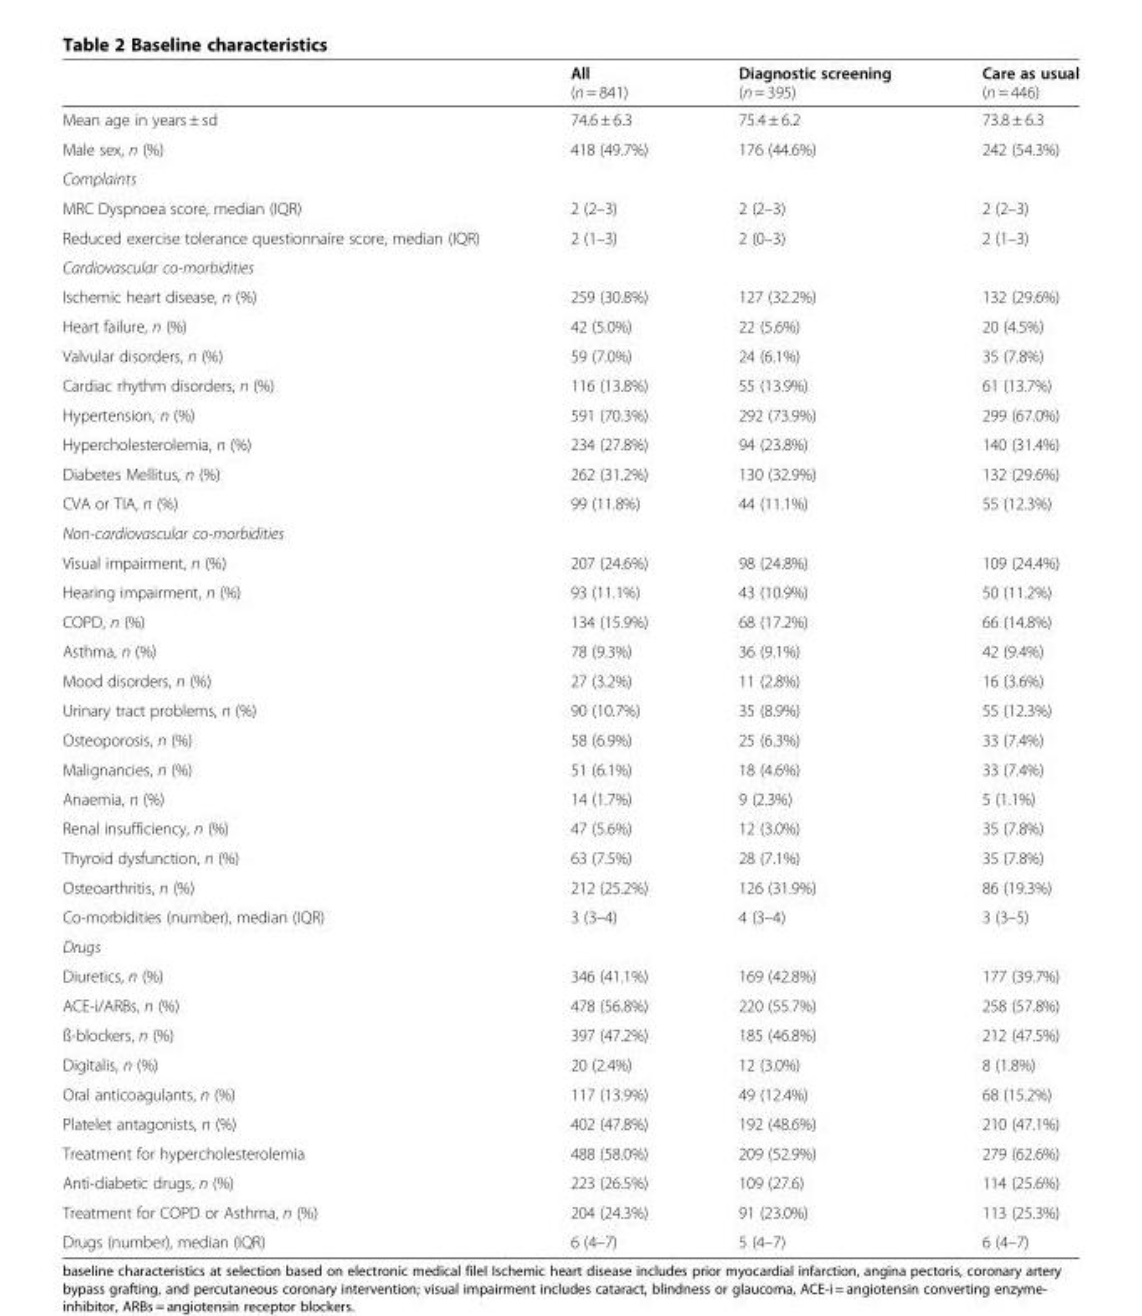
<table><thead><tr><td rowspan="2"></td><td rowspan="2">All (n = 841)</td><td rowspan="2">Diagnostic screening (n = 395)</td><td rowspan="2">Care as usual (n = 446)</td></tr><tr></tr></thead><tbody><tr><td>Mean age in years ± sd</td><td>74.6 ± 6.3</td><td>75.4 ± 6.2</td><td>73.8 ± 6.3</td></tr><tr><td>Male sex, n (%)</td><td>418 (49.7%)</td><td>176 (44.6%)</td><td>242 (54.3%)</td></tr><tr><td colspan="4">Complaints</td></tr><tr><td>MRC Dyspnoea score, median (IQR)</td><td>2 (2–3)</td><td>2 (2–3)</td><td>2 (2–3)</td></tr><tr><td>Reduced exercise tolerance questionnaire score, median (IQR)</td><td>2 (1–3)</td><td>2 (0–3)</td><td>2 (1–3)</td></tr><tr><td colspan="4">Cardiovascular co-morbidities</td></tr><tr><td>Ischemic heart disease, n (%)</td><td>259 (30.8%)</td><td>127 (32.2%)</td><td>132 (29.6%)</td></tr><tr><td>Heart failure, n (%)</td><td>42 (5.0%)</td><td>22 (5.6%)</td><td>20 (4.5%)</td></tr><tr><td>Valvular disorders, n (%)</td><td>59 (7.0%)</td><td>24 (6.1%)</td><td>35 (7.8%)</td></tr><tr><td>Cardiac rhythm disorders, n (%)</td><td>116 (13.8%)</td><td>55 (13.9%)</td><td>61 (13.7%)</td></tr><tr><td>Hypertension, n (%)</td><td>591 (70.3%)</td><td>292 (73.9%)</td><td>299 (67.0%)</td></tr><tr><td>Hypercholesterolemia, n (%)</td><td>234 (27.8%)</td><td>94 (23.8%)</td><td>140 (31.4%)</td></tr><tr><td>Diabetes Mellitus, n (%)</td><td>262 (31.2%)</td><td>130 (32.9%)</td><td>132 (29.6%)</td></tr><tr><td>CVA or TIA, n (%)</td><td>99 (11.8%)</td><td>44 (11.1%)</td><td>55 (12.3%)</td></tr><tr><td colspan="4">Non-cardiovascular co-morbidities</td></tr><tr><td>Visual impairment, n (%)</td><td>207 (24.6%)</td><td>98 (24.8%)</td><td>109 (24.4%)</td></tr><tr><td>Hearing impairment, n (%)</td><td>93 (11.1%)</td><td>43 (10.9%)</td><td>50 (11.2%)</td></tr><tr><td>COPD, n (%)</td><td>134 (15.9%)</td><td>68 (17.2%)</td><td>66 (14.8%)</td></tr><tr><td>Asthma, n (%)</td><td>78 (9.3%)</td><td>36 (9.1%)</td><td>42 (9.4%)</td></tr><tr><td>Mood disorders, n (%)</td><td>27 (3.2%)</td><td>11 (2.8%)</td><td>16 (3.6%)</td></tr><tr><td>Urinary tract problems, n (%)</td><td>90 (10.7%)</td><td>35 (8.9%)</td><td>55 (12.3%)</td></tr><tr><td>Osteoporosis, n (%)</td><td>58 (6.9%)</td><td>25 (6.3%)</td><td>33 (7.4%)</td></tr><tr><td>Malignancies, n (%)</td><td>51 (6.1%)</td><td>18 (4.6%)</td><td>33 (7.4%)</td></tr><tr><td>Anaemia, n (%)</td><td>14 (1.7%)</td><td>9 (2.3%)</td><td>5 (1.1%)</td></tr><tr><td>Renal insufficiency, n (%)</td><td>47 (5.6%)</td><td>12 (3.0%)</td><td>35 (7.8%)</td></tr><tr><td>Thyroid dysfunction, n (%)</td><td>63 (7.5%)</td><td>28 (7.1%)</td><td>35 (7.8%)</td></tr><tr><td>Osteoarthritis, n (%)</td><td>212 (25.2%)</td><td>126 (31.9%)</td><td>86 (19.3%)</td></tr><tr><td>Co-morbidities (number), median (IQR)</td><td>3 (3–4)</td><td>4 (3–4)</td><td>3 (3–5)</td></tr><tr><td colspan="4">Drugs</td></tr><tr><td>Diuretics, n (%)</td><td>346 (41.1%)</td><td>169 (42.8%)</td><td>177 (39.7%)</td></tr><tr><td>ACE-i/ARBs, n (%)</td><td>478 (56.8%)</td><td>220 (55.7%)</td><td>258 (57.8%)</td></tr><tr><td>ß-blockers, n (%)</td><td>397 (47.2%)</td><td>185 (46.8%)</td><td>212 (47.5%)</td></tr><tr><td>Digitalis, n (%)</td><td>20 (2.4%)</td><td>12 (3.0%)</td><td>8 (1.8%)</td></tr><tr><td>Oral anticoagulants, n (%)</td><td>117 (13.9%)</td><td>49 (12.4%)</td><td>68 (15.2%)</td></tr><tr><td>Platelet antagonists, n (%)</td><td>402 (47.8%)</td><td>192 (48.6%)</td><td>210 (47.1%)</td></tr><tr><td>Treatment for hypercholesterolemia</td><td>488 (58.0%)</td><td>209 (52.9%)</td><td>279 (62.6%)</td></tr><tr><td>Anti-diabetic drugs, n (%)</td><td>223 (26.5%)</td><td>109 (27.6)</td><td>114 (25.6%)</td></tr><tr><td>Treatment for COPD or Asthma, n (%)</td><td>204 (24.3%)</td><td>91 (23.0%)</td><td>113 (25.3%)</td></tr><tr><td>Drugs (number), median (IQR)</td><td>6 (4–7)</td><td>5 (4–7)</td><td>6 (4–7)</td></tr></tbody></table>